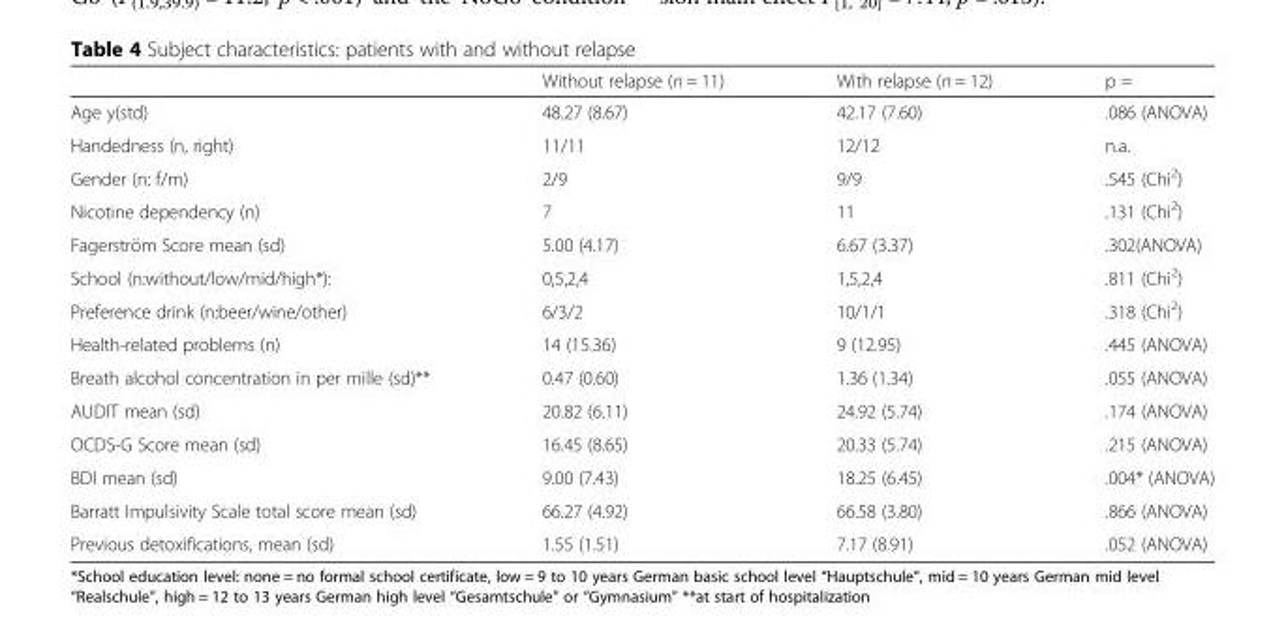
<table><thead><tr><td></td><td>Without relapse (n = 11)</td><td>With relapse (n = 12)</td><td>p =</td></tr></thead><tbody><tr><td>Age y(std)</td><td>48.27 (8.67)</td><td>42.17 (7.60)</td><td>.086 (ANOVA)</td></tr><tr><td>Handedness (n, right)</td><td>11/11</td><td>12/12</td><td>n.a.</td></tr><tr><td>Gender (n: f/m)</td><td>2/9</td><td>9/9</td><td>.545 (Chi<sup>2</sup>)</td></tr><tr><td>Nicotine dependency (n)</td><td>7</td><td>11</td><td>.131 (Chi<sup>2</sup>)</td></tr><tr><td>Fagerström Score mean (sd)</td><td>5.00 (4.17)</td><td>6.67 (3.37)</td><td>.302(ANOVA)</td></tr><tr><td>School (n:without/low/mid/high*):</td><td>0,5,2,4</td><td>1,5,2,4</td><td>.811 (Chi<sup>2</sup>)</td></tr><tr><td>Preference drink (n:beer/wine/other)</td><td>6/3/2</td><td>10/1/1</td><td>.318 (Chi<sup>2</sup>)</td></tr><tr><td>Health-related problems (n)</td><td>14 (15.36)</td><td>9 (12.95)</td><td>.445 (ANOVA)</td></tr><tr><td>Breath alcohol concentration in per mille (sd)**</td><td>0.47 (0.60)</td><td>1.36 (1.34)</td><td>.055 (ANOVA)</td></tr><tr><td>AUDIT mean (sd)</td><td>20.82 (6.11)</td><td>24.92 (5.74)</td><td>.174 (ANOVA)</td></tr><tr><td>OCDS-G Score mean (sd)</td><td>16.45 (8.65)</td><td>20.33 (5.74)</td><td>.215 (ANOVA)</td></tr><tr><td>BDI mean (sd)</td><td>9.00 (7.43)</td><td>18.25 (6.45)</td><td>.004* (ANOVA)</td></tr><tr><td>Barratt Impulsivity Scale total score mean (sd)</td><td>66.27 (4.92)</td><td>66.58 (3.80)</td><td>.866 (ANOVA)</td></tr><tr><td>Previous detoxifications, mean (sd)</td><td>1.55 (1.51)</td><td>7.17 (8.91)</td><td>.052 (ANOVA)</td></tr></tbody></table>